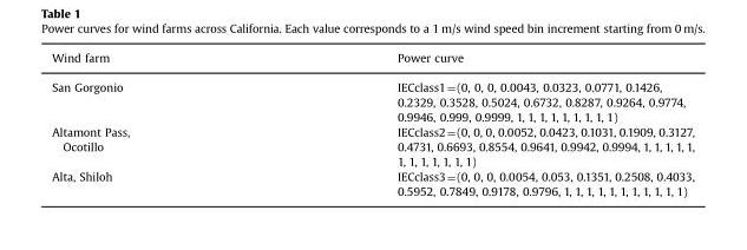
<table><thead><tr><td>Wind farm</td><td>Power curve</td></tr></thead><tbody><tr><td>San Gorgonio</td><td>IECclass1=(0, 0, 0, 0.0043, 0.0323, 0.0771, 0.1426, 0.2329, 0.3528, 0.5024, 0.6732, 0.8287, 0.9264, 0.9774, 0.9946, 0.999, 0.9999, 1, 1, 1, 1, 1, 1, 1, 1, 1)</td></tr><tr><td>Altamont Pass, Ocotillo</td><td>IECclass2=(0, 0, 0, 0.0052, 0.0423, 0.1031, 0.1909, 0.3127, 0.4731, 0.6693, 0.8554, 0.9641, 0.9942, 0.9994, 1, 1, 1, 1, 1, 1, 1, 1, 1, 1, 1, 1)</td></tr><tr><td>Alta, Shiloh</td><td>IECclass3=(0, 0, 0, 0.0054, 0.053, 0.1351, 0.2508, 0.4033, 0.5952, 0.7849, 0.9178, 0.9796, 1, 1, 1, 1, 1, 1, 1, 1, 1, 1, 1)</td></tr></tbody></table>